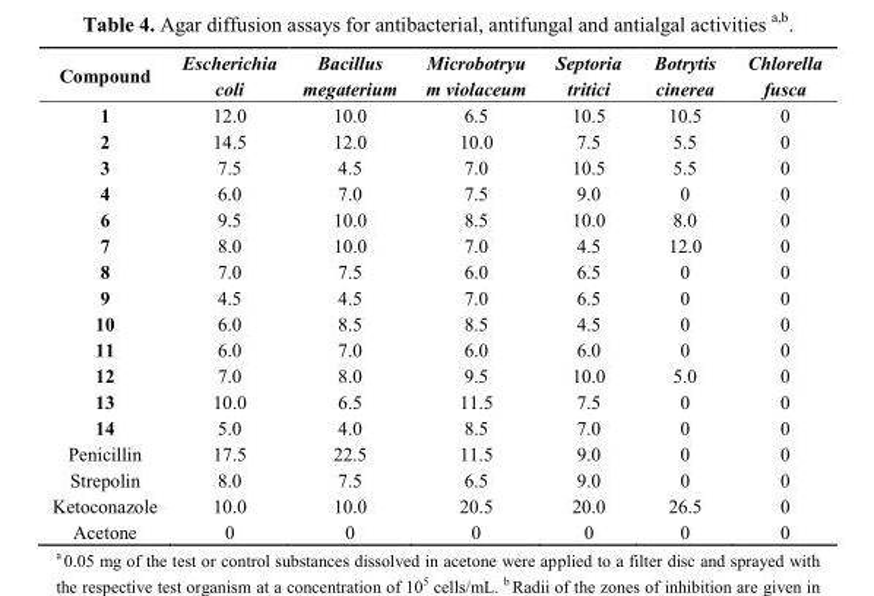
<table><thead><tr><td>Compound</td><td>Escherichia coli</td><td>Bacillus megaterium</td><td>Microbotryu m violaceum</td><td>Septoria tritici</td><td>Botrytis cinerea</td><td>Chlorella fusca</td></tr></thead><tbody><tr><td>1</td><td>12.0</td><td>10.0</td><td>6.5</td><td>10.5</td><td>10.5</td><td>0</td></tr><tr><td>2</td><td>14.5</td><td>12.0</td><td>10.0</td><td>7.5</td><td>5.5</td><td>0</td></tr><tr><td>3</td><td>7.5</td><td>4.5</td><td>7.0</td><td>10.5</td><td>5.5</td><td>0</td></tr><tr><td>4</td><td>6.0</td><td>7.0</td><td>7.5</td><td>9.0</td><td>0</td><td>0</td></tr><tr><td>6</td><td>9.5</td><td>10.0</td><td>8.5</td><td>10.0</td><td>8.0</td><td>0</td></tr><tr><td>7</td><td>8.0</td><td>10.0</td><td>7.0</td><td>4.5</td><td>12.0</td><td>0</td></tr><tr><td>8</td><td>7.0</td><td>7.5</td><td>6.0</td><td>6.5</td><td>0</td><td>0</td></tr><tr><td>9</td><td>4.5</td><td>4.5</td><td>7.0</td><td>6.5</td><td>0</td><td>0</td></tr><tr><td>10</td><td>6.0</td><td>8.5</td><td>8.5</td><td>4.5</td><td>0</td><td>0</td></tr><tr><td>11</td><td>6.0</td><td>7.0</td><td>6.0</td><td>6.0</td><td>0</td><td>0</td></tr><tr><td>12</td><td>7.0</td><td>8.0</td><td>9.5</td><td>10.0</td><td>5.0</td><td>0</td></tr><tr><td>13</td><td>10.0</td><td>6.5</td><td>11.5</td><td>7.5</td><td>0</td><td>0</td></tr><tr><td>14</td><td>5.0</td><td>4.0</td><td>8.5</td><td>7.0</td><td>0</td><td>0</td></tr><tr><td>Penicillin</td><td>17.5</td><td>22.5</td><td>11.5</td><td>9.0</td><td>0</td><td>0</td></tr><tr><td>Strepolin</td><td>8.0</td><td>7.5</td><td>6.5</td><td>9.0</td><td>0</td><td>0</td></tr><tr><td>Ketoconazole</td><td>10.0</td><td>10.0</td><td>20.5</td><td>20.0</td><td>26.5</td><td>0</td></tr><tr><td>Acetone</td><td>0</td><td>0</td><td>0</td><td>0</td><td>0</td><td>0</td></tr></tbody></table>